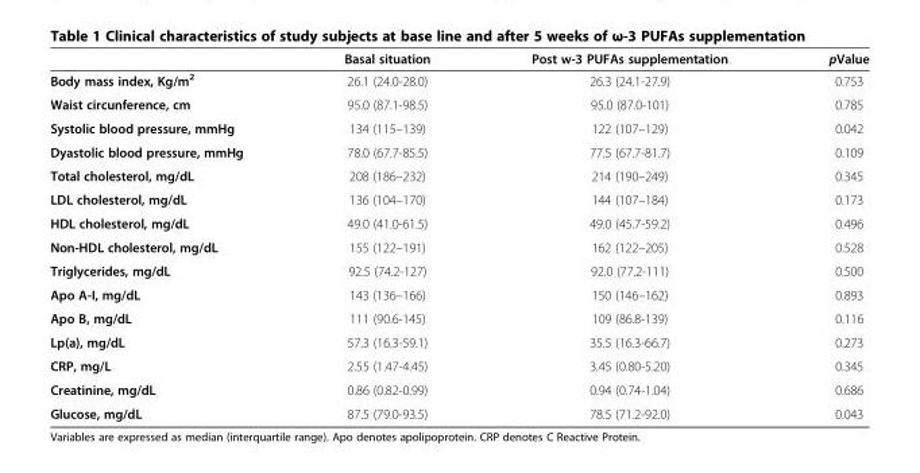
<table><thead><tr><td></td><td>Basal situation</td><td>Post w-3 PUFAs supplementation</td><td>pValue</td></tr></thead><tbody><tr><td>Body mass index, Kg/m<sup>2</sup></td><td>26.1 (24.0-28.0)</td><td>26.3 (24.1-27.9)</td><td>0.753</td></tr><tr><td>Waist circunference, cm</td><td>95.0 (87.1-98.5)</td><td>95.0 (87.0-101)</td><td>0.785</td></tr><tr><td>Systolic blood pressure, mmHg</td><td>134 (115–139)</td><td>122 (107–129)</td><td>0.042</td></tr><tr><td>Dyastolic blood pressure, mmHg</td><td>78.0 (67.7-85.5)</td><td>77.5 (67.7-81.7)</td><td>0.109</td></tr><tr><td>Total cholesterol, mg/dL</td><td>208 (186–232)</td><td>214 (190–249)</td><td>0.345</td></tr><tr><td>LDL cholesterol, mg/dL</td><td>136 (104–170)</td><td>144 (107–184)</td><td>0.173</td></tr><tr><td>HDL cholesterol, mg/dL</td><td>49.0 (41.0-61.5)</td><td>49.0 (45.7-59.2)</td><td>0.496</td></tr><tr><td>Non-HDL cholesterol, mg/dL</td><td>155 (122–191)</td><td>162 (122–205)</td><td>0.528</td></tr><tr><td>Triglycerides, mg/dL</td><td>92.5 (74.2-127)</td><td>92.0 (77.2-111)</td><td>0.500</td></tr><tr><td>Apo A-I, mg/dL</td><td>143 (136–166)</td><td>150 (146–162)</td><td>0.893</td></tr><tr><td>Apo B, mg/dL</td><td>111 (90.6-145)</td><td>109 (86.8-139)</td><td>0.116</td></tr><tr><td>Lp(a), mg/dL</td><td>57.3 (16.3-59.1)</td><td>35.5 (16.3-66.7)</td><td>0.273</td></tr><tr><td>CRP, mg/L</td><td>2.55 (1.47-4.45)</td><td>3.45 (0.80-5.20)</td><td>0.345</td></tr><tr><td>Creatinine, mg/dL</td><td>0.86 (0.82-0.99)</td><td>0.94 (0.74-1.04)</td><td>0.686</td></tr><tr><td>Glucose, mg/dL</td><td>87.5 (79.0-93.5)</td><td>78.5 (71.2-92.0)</td><td>0.043</td></tr></tbody></table>